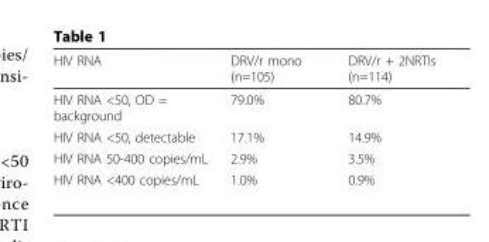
<table><thead><tr><td>HIV RNA</td><td>DRV/r mono (n=105)</td><td>DRV/r + 2NRTIs (n=114)</td></tr></thead><tbody><tr><td>HIV RNA &lt;50, OD = background</td><td>79.0%</td><td>80.7%</td></tr><tr><td>HIV RNA &lt;50, detectable</td><td>17.1%</td><td>14.9%</td></tr><tr><td>HIV RNA 50-400 copies/mL</td><td>2.9%</td><td>3.5%</td></tr><tr><td>HIV RNA &lt;400 copies/mL</td><td>1.0%</td><td>0.9%</td></tr></tbody></table>